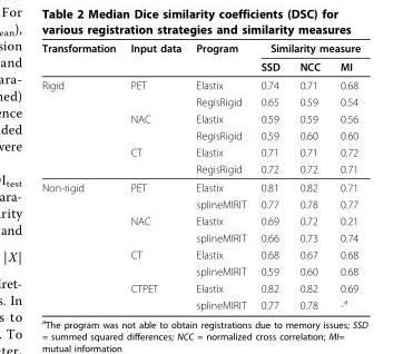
<table><thead><tr><td rowspan="2">Transformation</td><td rowspan="2">Input data</td><td rowspan="2">Program</td><td colspan="3">Similarity measure</td></tr><tr><td>SSD</td><td>NCC</td><td>MI</td></tr></thead><tbody><tr><td rowspan="6">Rigid</td><td>PET</td><td>Elastix</td><td>0.74</td><td>0.71</td><td>0.68</td></tr><tr><td></td><td>RegisRigid</td><td>0.65</td><td>0.59</td><td>0.54</td></tr><tr><td>NAC</td><td>Elastix</td><td>0.59</td><td>0.59</td><td>0.56</td></tr><tr><td></td><td>RegisRigid</td><td>0.59</td><td>0.60</td><td>0.60</td></tr><tr><td>CT</td><td>Elastix</td><td>0.71</td><td>0.71</td><td>0.72</td></tr><tr><td></td><td>RegisRigid</td><td>0.72</td><td>0.72</td><td>0.71</td></tr><tr><td rowspan="8">Non-rigid</td><td>PET</td><td>Elastix</td><td>0.81</td><td>0.82</td><td>0.71</td></tr><tr><td></td><td>splineMIRIT</td><td>0.77</td><td>0.78</td><td>0.77</td></tr><tr><td>NAC</td><td>Elastix</td><td>0.69</td><td>0.72</td><td>0.21</td></tr><tr><td></td><td>splineMIRIT</td><td>0.66</td><td>0.73</td><td>0.74</td></tr><tr><td>CT</td><td>Elastix</td><td>0.68</td><td>0.67</td><td>0.68</td></tr><tr><td></td><td>splineMIRIT</td><td>0.59</td><td>0.60</td><td>0.68</td></tr><tr><td>CTPET</td><td>Elastix</td><td>0.82</td><td>0.82</td><td>0.69</td></tr><tr><td></td><td>splineMIRIT</td><td>0.77</td><td>0.78</td><td>-<sup>a</sup></td></tr></tbody></table>